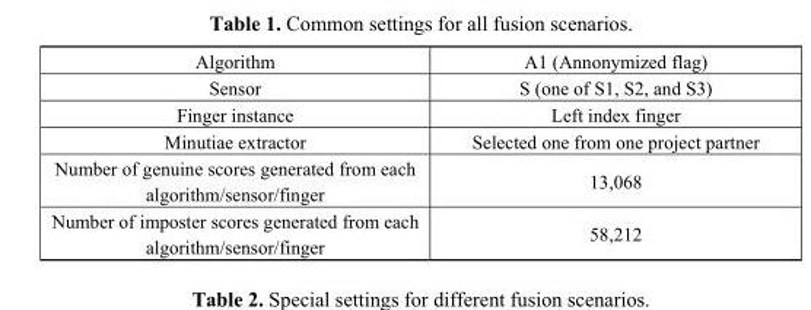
<table><tbody><tr><td>Algorithm</td><td>A1 (Annonymized flag)</td></tr><tr><td>Sensor</td><td>S (one of S1, S2, and S3)</td></tr><tr><td>Finger instance</td><td>Left index finger</td></tr><tr><td>Minutiae extractor</td><td>Selected one from one project partner</td></tr><tr><td>Number of genuine scores generated from each algorithm/sensor/finger</td><td>13,068</td></tr><tr><td>Number of imposter scores generated from each algorithm/sensor/finger</td><td>58,212</td></tr></tbody></table>